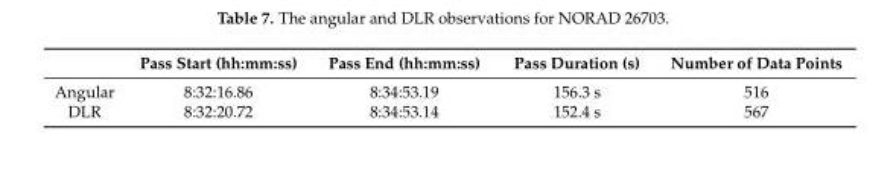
<table><thead><tr><td></td><td>Pass Start (hh:mm:ss)</td><td>Pass End (hh:mm:ss)</td><td>Pass Duration (s)</td><td>Number of Data Points</td></tr></thead><tbody><tr><td>Angular</td><td>8:32:16.86</td><td>8:34:53.19</td><td>156.3 s</td><td>516</td></tr><tr><td>DLR</td><td>8:32:20.72</td><td>8:34:53.14</td><td>152.4 s</td><td>567</td></tr></tbody></table>